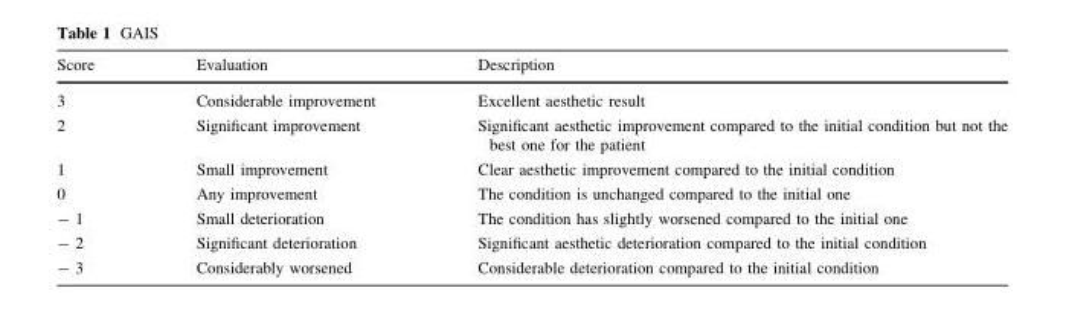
<table><thead><tr><td>Score</td><td>Evaluation</td><td>Description</td></tr></thead><tbody><tr><td>3</td><td>Considerable improvement</td><td>Excellent aesthetic result</td></tr><tr><td>2</td><td>Significant improvement</td><td>Significant aesthetic improvement compared to the initial condition but not the best one for the patient</td></tr><tr><td>1</td><td>Small improvement</td><td>Clear aesthetic improvement compared to the initial condition</td></tr><tr><td>0</td><td>Any improvement</td><td>The condition is unchanged compared to the initial one</td></tr><tr><td>- 1</td><td>Small deterioration</td><td>The condition has slightly worsened compared to the initial one</td></tr><tr><td>- 2</td><td>Significant deterioration</td><td>Significant aesthetic deterioration compared to the initial condition</td></tr><tr><td>- 3</td><td>Considerably worsened</td><td>Considerable deterioration compared to the initial condition</td></tr></tbody></table>